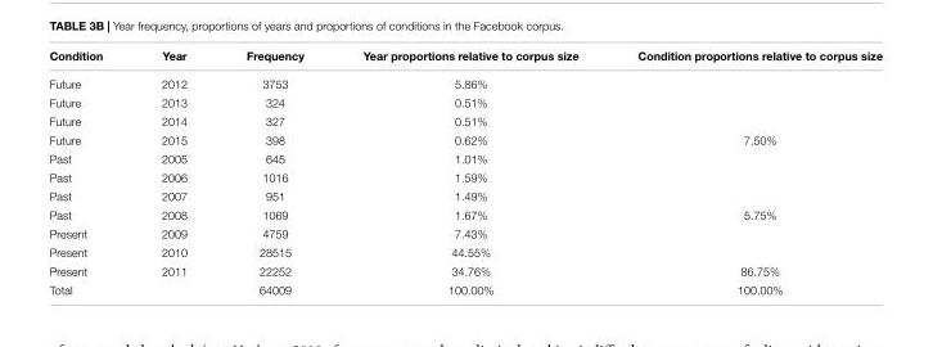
<table><thead><tr><td>Condition</td><td>Year</td><td>Frequency</td><td>Year proportions relative to corpus size</td><td>Condition proportions relative to corpus size</td></tr></thead><tbody><tr><td>Future</td><td>2012</td><td>3753</td><td>5.86%</td><td></td></tr><tr><td>Future</td><td>2013</td><td>324</td><td>0.51%</td><td></td></tr><tr><td>Future</td><td>2014</td><td>327</td><td>0.51%</td><td></td></tr><tr><td>Future</td><td>2015</td><td>398</td><td>0.62%</td><td>7.50%</td></tr><tr><td>Past</td><td>2005</td><td>645</td><td>1.01%</td><td></td></tr><tr><td>Past</td><td>2006</td><td>1016</td><td>1.59%</td><td></td></tr><tr><td>Past</td><td>2007</td><td>951</td><td>1.49%</td><td></td></tr><tr><td>Past</td><td>2008</td><td>1069</td><td>1.67%</td><td>5.75%</td></tr><tr><td>Present</td><td>2009</td><td>4759</td><td>7.43%</td><td></td></tr><tr><td>Present</td><td>2010</td><td>28515</td><td>44.55%</td><td></td></tr><tr><td>Present</td><td>2011</td><td>22252</td><td>34.76%</td><td>86.75%</td></tr><tr><td>Total</td><td></td><td>64009</td><td>100.00%</td><td>100.00%</td></tr></tbody></table>